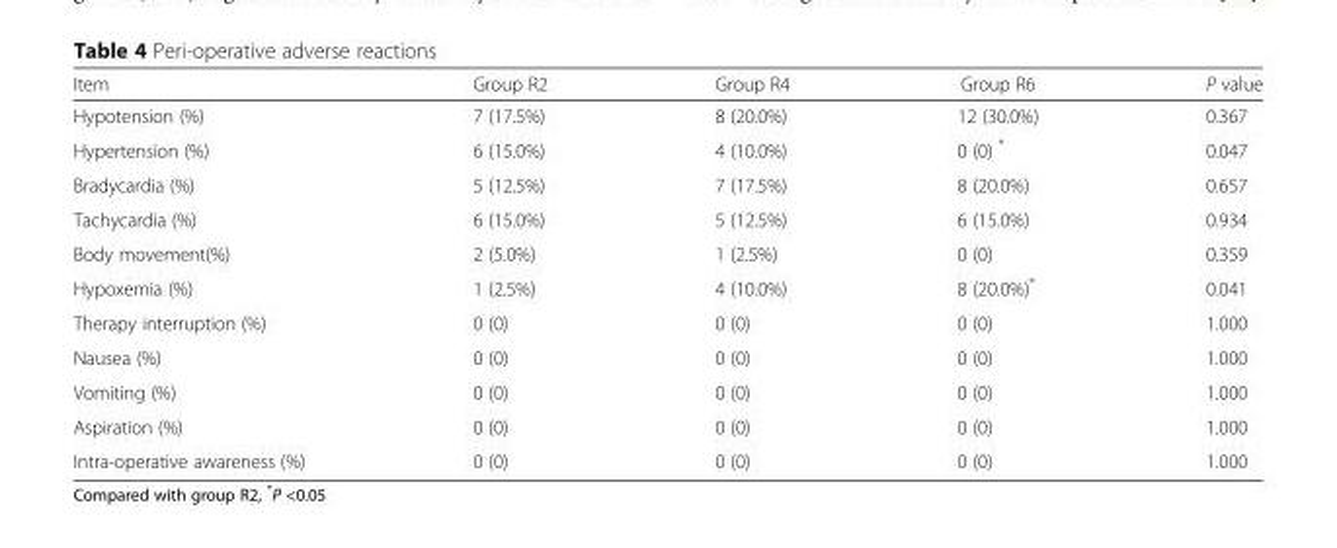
<table><thead><tr><td>Item</td><td>Group R2</td><td>Group R4</td><td>Group R6</td><td>P value</td></tr></thead><tbody><tr><td>Hypotension (%)</td><td>7 (17.5%)</td><td>8 (20.0%)</td><td>12 (30.0%)</td><td>0.367</td></tr><tr><td>Hypertension (%)</td><td>6 (15.0%)</td><td>4 (10.0%)</td><td>0 (0) *</td><td>0.047</td></tr><tr><td>Bradycardia (%)</td><td>5 (12.5%)</td><td>7 (17.5%)</td><td>8 (20.0%)</td><td>0.657</td></tr><tr><td>Tachycardia (%)</td><td>6 (15.0%)</td><td>5 (12.5%)</td><td>6 (15.0%)</td><td>0.934</td></tr><tr><td>Body movement(%)</td><td>2 (5.0%)</td><td>1 (2.5%)</td><td>0 (0)</td><td>0.359</td></tr><tr><td>Hypoxemia (%)</td><td>1 (2.5%)</td><td>4 (10.0%)</td><td>8 (20.0%)*</td><td>0.041</td></tr><tr><td>Therapy interruption (%)</td><td>0 (0)</td><td>0 (0)</td><td>0 (0)</td><td>1.000</td></tr><tr><td>Nausea (%)</td><td>0 (0)</td><td>0 (0)</td><td>0 (0)</td><td>1.000</td></tr><tr><td>Vomiting (%)</td><td>0 (0)</td><td>0 (0)</td><td>0 (0)</td><td>1.000</td></tr><tr><td>Aspiration (%)</td><td>0 (0)</td><td>0 (0)</td><td>0 (0)</td><td>1.000</td></tr><tr><td>Intra-operative awareness (%)</td><td>0 (0)</td><td>0 (0)</td><td>0 (0)</td><td>1.000</td></tr></tbody></table>